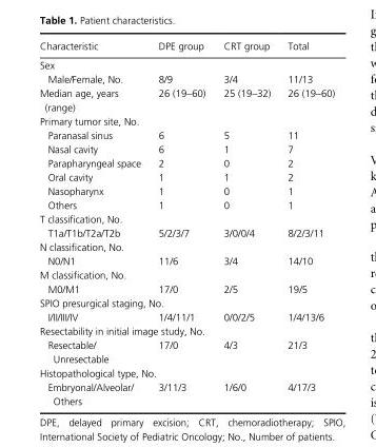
<table><thead><tr><td>Characteristic</td><td>DPE group</td><td>CRT group</td><td>Total</td></tr></thead><tbody><tr><td colspan="4">Sex</td></tr><tr><td>Male/Female, No.</td><td>8/9</td><td>3/4</td><td>11/13</td></tr><tr><td>Median age, years (range)</td><td>26 (19–60)</td><td>25 (19–32)</td><td>26 (19–60)</td></tr><tr><td colspan="4">Primary tumor site, No.</td></tr><tr><td>Paranasal sinus</td><td>6</td><td>5</td><td>11</td></tr><tr><td>Nasal cavity</td><td>6</td><td>1</td><td>7</td></tr><tr><td>Parapharyngeal space</td><td>2</td><td>0</td><td>2</td></tr><tr><td>Oral cavity</td><td>1</td><td>1</td><td>2</td></tr><tr><td>Nasopharynx</td><td>1</td><td>0</td><td>1</td></tr><tr><td>Others</td><td>1</td><td>0</td><td>1</td></tr><tr><td colspan="4">T classification, No.</td></tr><tr><td>T1a/T1b/T2a/T2b</td><td>5/2/3/7</td><td>3/0/0/4</td><td>8/2/3/11</td></tr><tr><td colspan="4">N classification, No.</td></tr><tr><td>N0/N1</td><td>11/6</td><td>3/4</td><td>14/10</td></tr><tr><td colspan="4">M classification, No.</td></tr><tr><td>M0/M1</td><td>17/0</td><td>2/5</td><td>19/5</td></tr><tr><td colspan="4">SPIO presurgical staging, No.</td></tr><tr><td>I/II/III/IV</td><td>1/4/11/1</td><td>0/0/2/5</td><td>1/4/13/6</td></tr><tr><td colspan="4">Resectability in initial image study, No.</td></tr><tr><td>Resectable/ Unresectable</td><td>17/0</td><td>4/3</td><td>21/3</td></tr><tr><td colspan="4">Histopathological type, No.</td></tr><tr><td>Embryonal/Alveolar/ Others</td><td>3/11/3</td><td>1/6/0</td><td>4/17/3</td></tr></tbody></table>